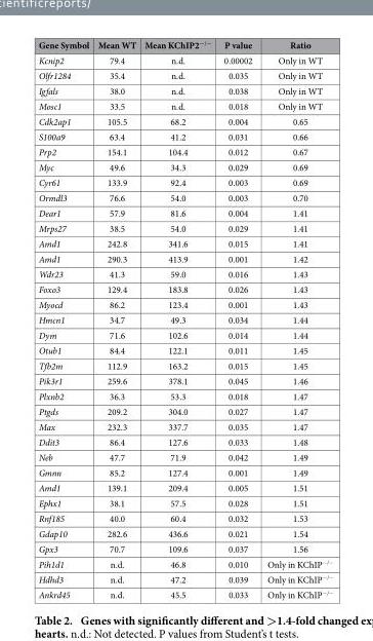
<table><thead><tr><td>Gene Symbol</td><td>Mean WT</td><td>Mean KChIP2<sup>−/−</sup></td><td>P value</td><td>Ratio</td></tr></thead><tbody><tr><td>Kcnip2</td><td>79.4</td><td>n.d.</td><td>0.00002</td><td>Only in WT</td></tr><tr><td>Olfr1284</td><td>35.4</td><td>n.d.</td><td>0.035</td><td>Only in WT</td></tr><tr><td>Igfals</td><td>38.0</td><td>n.d.</td><td>0.038</td><td>Only in WT</td></tr><tr><td>Mosc1</td><td>33.5</td><td>n.d.</td><td>0.018</td><td>Only in WT</td></tr><tr><td>Cdk2ap1</td><td>105.5</td><td>68.2</td><td>0.004</td><td>0.65</td></tr><tr><td>S100a9</td><td>63.4</td><td>41.2</td><td>0.031</td><td>0.66</td></tr><tr><td>Prp2</td><td>154.1</td><td>104.4</td><td>0.012</td><td>0.67</td></tr><tr><td>Myc</td><td>49.6</td><td>34.3</td><td>0.029</td><td>0.69</td></tr><tr><td>Cyr61</td><td>133.9</td><td>92.4</td><td>0.003</td><td>0.69</td></tr><tr><td>Ormdl3</td><td>76.6</td><td>54.0</td><td>0.003</td><td>0.70</td></tr><tr><td>Dear1</td><td>57.9</td><td>81.6</td><td>0.004</td><td>1.41</td></tr><tr><td>Mrps27</td><td>38.5</td><td>54.0</td><td>0.029</td><td>1.41</td></tr><tr><td>Amd1</td><td>242.8</td><td>341.6</td><td>0.015</td><td>1.41</td></tr><tr><td>Amd1</td><td>290.3</td><td>413.9</td><td>0.001</td><td>1.42</td></tr><tr><td>Wdr23</td><td>41.3</td><td>59.0</td><td>0.016</td><td>1.43</td></tr><tr><td>Foxo3</td><td>129.4</td><td>183.8</td><td>0.026</td><td>1.43</td></tr><tr><td>Myocd</td><td>86.2</td><td>123.4</td><td>0.001</td><td>1.43</td></tr><tr><td>Hmcn1</td><td>34.7</td><td>49.3</td><td>0.034</td><td>1.44</td></tr><tr><td>Dym</td><td>71.6</td><td>102.6</td><td>0.014</td><td>1.44</td></tr><tr><td>Otub1</td><td>84.4</td><td>122.1</td><td>0.011</td><td>1.45</td></tr><tr><td>Tfb2m</td><td>112.9</td><td>163.2</td><td>0.015</td><td>1.45</td></tr><tr><td>Pik3r1</td><td>259.6</td><td>378.1</td><td>0.045</td><td>1.46</td></tr><tr><td>Plxnb2</td><td>36.3</td><td>53.3</td><td>0.018</td><td>1.47</td></tr><tr><td>Ptgds</td><td>209.2</td><td>304.0</td><td>0.027</td><td>1.47</td></tr><tr><td>Max</td><td>232.3</td><td>337.7</td><td>0.035</td><td>1.47</td></tr><tr><td>Ddit3</td><td>86.4</td><td>127.6</td><td>0.033</td><td>1.48</td></tr><tr><td>Neb</td><td>47.7</td><td>71.9</td><td>0.042</td><td>1.49</td></tr><tr><td>Gmnn</td><td>85.2</td><td>127.4</td><td>0.001</td><td>1.49</td></tr><tr><td>Amd1</td><td>139.1</td><td>209.4</td><td>0.005</td><td>1.51</td></tr><tr><td>Ephx1</td><td>38.1</td><td>57.5</td><td>0.028</td><td>1.51</td></tr><tr><td>Rnf185</td><td>40.0</td><td>60.4</td><td>0.032</td><td>1.53</td></tr><tr><td>Gdap10</td><td>282.6</td><td>436.6</td><td>0.021</td><td>1.54</td></tr><tr><td>Gpx3</td><td>70.7</td><td>109.6</td><td>0.037</td><td>1.56</td></tr><tr><td>Pih1d1</td><td>n.d.</td><td>46.8</td><td>0.010</td><td>Only in KChIP<sup>−/−</sup></td></tr><tr><td>Hdhd3</td><td>n.d.</td><td>47.2</td><td>0.039</td><td>Only in KChIP<sup>−/−</sup></td></tr><tr><td>Ankrd45</td><td>n.d.</td><td>45.5</td><td>0.033</td><td>Only in KChIP<sup>−/−</sup></td></tr></tbody></table>